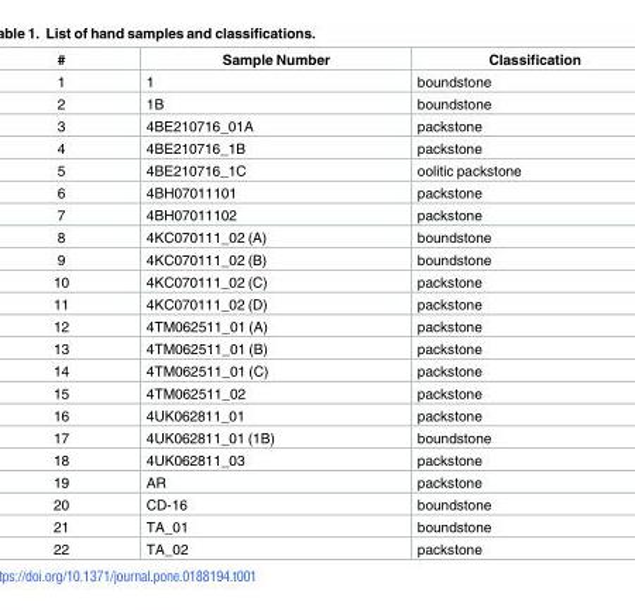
<table><thead><tr><td>#</td><td>Sample Number</td><td>Classification</td></tr></thead><tbody><tr><td>1</td><td>1</td><td>boundstone</td></tr><tr><td>2</td><td>1B</td><td>boundstone</td></tr><tr><td>3</td><td>4BE210716_01A</td><td>packstone</td></tr><tr><td>4</td><td>4BE210716_1B</td><td>packstone</td></tr><tr><td>5</td><td>4BE210716_1C</td><td>oolitic packstone</td></tr><tr><td>6</td><td>4BH07011101</td><td>packstone</td></tr><tr><td>7</td><td>4BH07011102</td><td>packstone</td></tr><tr><td>8</td><td>4KC070111_02 (A)</td><td>boundstone</td></tr><tr><td>9</td><td>4KC070111_02 (B)</td><td>boundstone</td></tr><tr><td>10</td><td>4KC070111_02 (C)</td><td>packstone</td></tr><tr><td>11</td><td>4KC070111_02 (D)</td><td>packstone</td></tr><tr><td>12</td><td>4TM062511_01 (A)</td><td>packstone</td></tr><tr><td>13</td><td>4TM062511_01 (B)</td><td>packstone</td></tr><tr><td>14</td><td>4TM062511_01 (C)</td><td>packstone</td></tr><tr><td>15</td><td>4TM062511_02</td><td>packstone</td></tr><tr><td>16</td><td>4UK062811_01</td><td>packstone</td></tr><tr><td>17</td><td>4UK062811_01 (1B)</td><td>boundstone</td></tr><tr><td>18</td><td>4UK062811_03</td><td>packstone</td></tr><tr><td>19</td><td>AR</td><td>packstone</td></tr><tr><td>20</td><td>CD-16</td><td>boundstone</td></tr><tr><td>21</td><td>TA_01</td><td>boundstone</td></tr><tr><td>22</td><td>TA_02</td><td>packstone</td></tr></tbody></table>